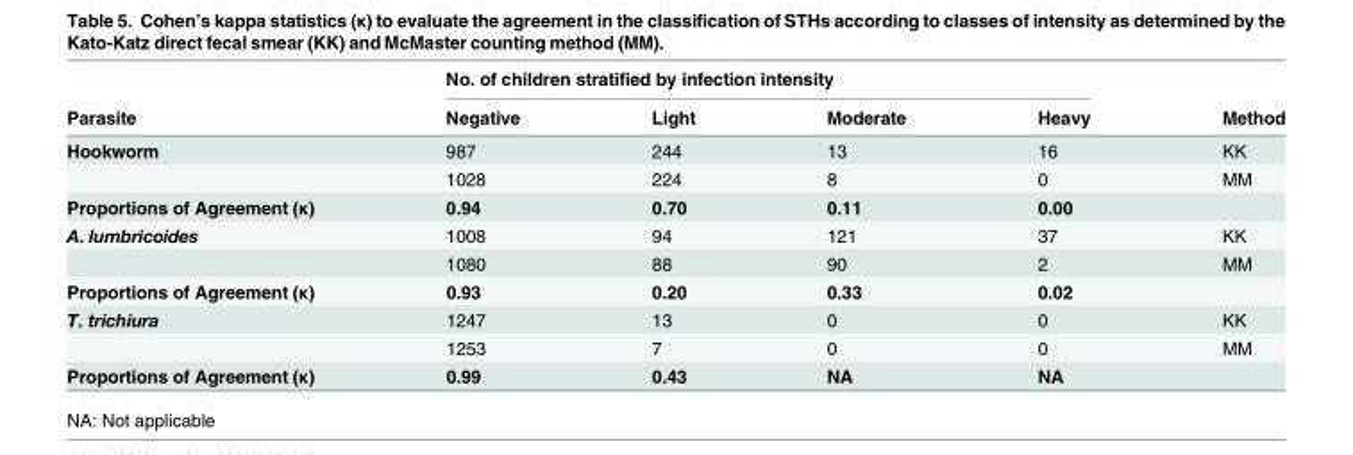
<table><thead><tr><td rowspan="2">Parasite</td><td colspan="4">No. of children stratified by infection intensity</td><td rowspan="2">Method</td></tr><tr><td>Negative</td><td>Light</td><td>Moderate</td><td>Heavy</td></tr></thead><tbody><tr><td rowspan="2">Hookworm</td><td>987</td><td>244</td><td>13</td><td>16</td><td>KK</td></tr><tr><td>1028</td><td>224</td><td>8</td><td>0</td><td>MM</td></tr><tr><td>Proportions of Agreement (κ)</td><td>0.94</td><td>0.70</td><td>0.11</td><td>0.00</td><td></td></tr><tr><td rowspan="2">A. lumbricoides</td><td>1008</td><td>94</td><td>121</td><td>37</td><td>KK</td></tr><tr><td>1080</td><td>88</td><td>90</td><td>2</td><td>MM</td></tr><tr><td>Proportions of Agreement (κ)</td><td>0.93</td><td>0.20</td><td>0.33</td><td>0.02</td><td></td></tr><tr><td rowspan="2">T. trichiura</td><td>1247</td><td>13</td><td>0</td><td>0</td><td>KK</td></tr><tr><td>1253</td><td>7</td><td>0</td><td>0</td><td>MM</td></tr><tr><td>Proportions of Agreement (κ)</td><td>0.99</td><td>0.43</td><td>NA</td><td>NA</td><td></td></tr></tbody></table>